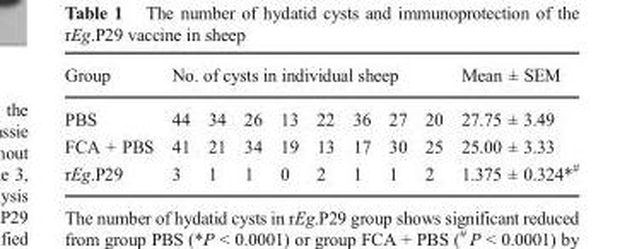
<table><thead><tr><td rowspan="2">Group PBS</td><td colspan="8">No. of cysts in individual sheep</td><td rowspan="2">Mean ± SEM 27.75 ± 3.49</td></tr><tr><td>44</td><td>34</td><td>26</td><td>13</td><td>22</td><td>36</td><td>27</td><td>20</td></tr></thead><tbody><tr><td>FCA + PBS</td><td>41</td><td>21</td><td>34</td><td>19</td><td>13</td><td>17</td><td>30</td><td>25</td><td>25.00 ± 3.33</td></tr><tr><td>rEg.P29</td><td>3</td><td>1</td><td>1</td><td>0</td><td>2</td><td>1</td><td>1</td><td>2</td><td>1.375 ± 0.324*<sup>#</sup></td></tr></tbody></table>